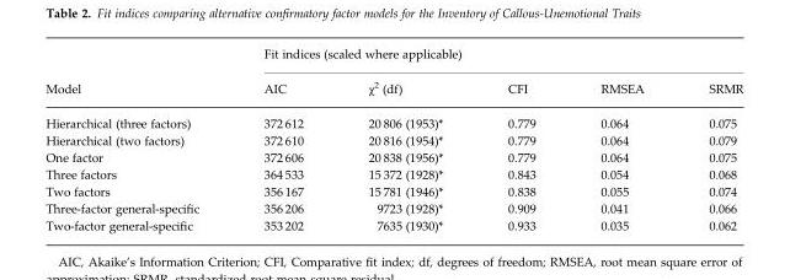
<table><thead><tr><td rowspan="2">Model</td><td colspan="5">Fit indices (scaled where applicable)</td></tr><tr><td>AIC</td><td>χ<sup>2</sup> (df)</td><td>CFI</td><td>RMSEA</td><td>SRMR</td></tr></thead><tbody><tr><td>Hierarchical (three factors)</td><td>372 612</td><td>20 806 (1953)*</td><td>0.779</td><td>0.064</td><td>0.075</td></tr><tr><td>Hierarchical (two factors)</td><td>372 610</td><td>20 816 (1954)*</td><td>0.779</td><td>0.064</td><td>0.079</td></tr><tr><td>One factor</td><td>372 606</td><td>20 838 (1956)*</td><td>0.779</td><td>0.064</td><td>0.075</td></tr><tr><td>Three factors</td><td>364 533</td><td>15 372 (1928)*</td><td>0.843</td><td>0.054</td><td>0.068</td></tr><tr><td>Two factors</td><td>356 167</td><td>15 781 (1946)*</td><td>0.838</td><td>0.055</td><td>0.074</td></tr><tr><td>Three-factor general-specific</td><td>356 206</td><td>9723 (1928)*</td><td>0.909</td><td>0.041</td><td>0.066</td></tr><tr><td>Two-factor general-specific</td><td>353 202</td><td>7635 (1930)*</td><td>0.933</td><td>0.035</td><td>0.062</td></tr></tbody></table>